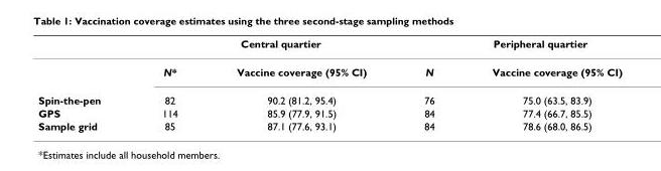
<table><thead><tr><td rowspan="2"></td><td colspan="2">Central quartier</td><td colspan="2">Peripheral quartier</td></tr><tr><td>N*</td><td>Vaccine coverage (95% CI)</td><td>N</td><td>Vaccine coverage (95% CI)</td></tr></thead><tbody><tr><td>Spin-the-pen</td><td>82</td><td>90.2 (81.2, 95.4)</td><td>76</td><td>75.0 (63.5, 83.9)</td></tr><tr><td>GPS</td><td>114</td><td>85.9 (77.9, 91.5)</td><td>84</td><td>77.4 (66.7, 85.5)</td></tr><tr><td>Sample grid</td><td>85</td><td>87.1 (77.6, 93.1)</td><td>84</td><td>78.6 (68.0, 86.5)</td></tr></tbody></table>